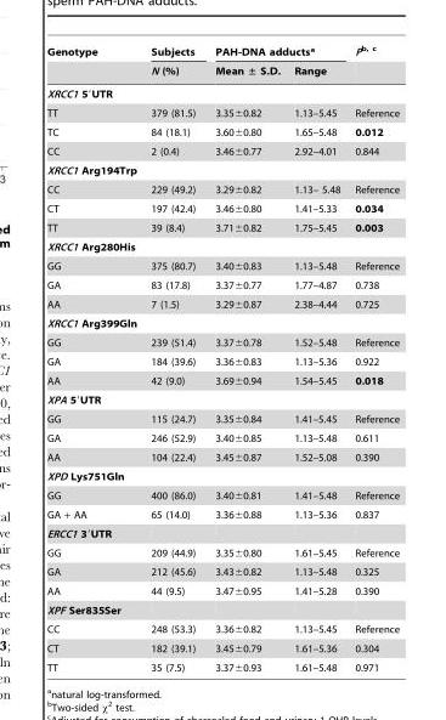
<table><thead><tr><td rowspan="2">Genotype</td><td rowspan="2">Subjects N (%)</td><td colspan="2">PAH-DNA adducts<sup>a</sup></td><td rowspan="2">Pb<sup>,</sup> c</td></tr><tr><td>Mean ± S.D.</td><td>Range</td></tr></thead><tbody><tr><td colspan="5">XRCC1 5′UTR</td></tr><tr><td>TT</td><td>379 (81.5)</td><td>3.35±0.82</td><td>1.13–5.45</td><td>Reference</td></tr><tr><td>TC</td><td>84 (18.1)</td><td>3.60±0.80</td><td>1.65–5.48</td><td>0.012</td></tr><tr><td>CC</td><td>2 (0.4)</td><td>3.46±0.77</td><td>2.92–4.01</td><td>0.844</td></tr><tr><td colspan="5">XRCC1 Arg194Trp</td></tr><tr><td>CC</td><td>229 (49.2)</td><td>3.29±0.82</td><td>1.13– 5.48</td><td>Reference</td></tr><tr><td>CT</td><td>197 (42.4)</td><td>3.46±0.80</td><td>1.41–5.33</td><td>0.034</td></tr><tr><td>TT</td><td>39 (8.4)</td><td>3.71±0.82</td><td>1.75–5.45</td><td>0.003</td></tr><tr><td colspan="5">XRCC1 Arg280His</td></tr><tr><td>GG</td><td>375 (80.7)</td><td>3.40±0.83</td><td>1.13–5.48</td><td>Reference</td></tr><tr><td>GA</td><td>83 (17.8)</td><td>3.37±0.77</td><td>1.77–4.87</td><td>0.738</td></tr><tr><td>AA</td><td>7 (1.5)</td><td>3.29±0.87</td><td>2.38–4.44</td><td>0.725</td></tr><tr><td colspan="5">XRCC1 Arg399Gln</td></tr><tr><td>GG</td><td>239 (51.4)</td><td>3.37±0.78</td><td>1.52–5.48</td><td>Reference</td></tr><tr><td>GA</td><td>184 (39.6)</td><td>3.36±0.83</td><td>1.13–5.36</td><td>0.922</td></tr><tr><td>AA</td><td>42 (9.0)</td><td>3.69±0.94</td><td>1.54–5.45</td><td>0.018</td></tr><tr><td colspan="5">XPA 5′UTR</td></tr><tr><td>GG</td><td>115 (24.7)</td><td>3.35±0.84</td><td>1.41–5.45</td><td>Reference</td></tr><tr><td>GA</td><td>246 (52.9)</td><td>3.40±0.85</td><td>1.13–5.48</td><td>0.611</td></tr><tr><td>AA</td><td>104 (22.4)</td><td>3.45±0.87</td><td>1.52–5.08</td><td>0.390</td></tr><tr><td colspan="5">XPD Lys751Gln</td></tr><tr><td>GG</td><td>400 (86.0)</td><td>3.40±0.81</td><td>1.41–5.48</td><td>Reference</td></tr><tr><td>GA + AA</td><td>65 (14.0)</td><td>3.36±0.88</td><td>1.13–5.36</td><td>0.837</td></tr><tr><td colspan="5">ERCC1 3′UTR</td></tr><tr><td>GG</td><td>209 (44.9)</td><td>3.35±0.80</td><td>1.61–5.45</td><td>Reference</td></tr><tr><td>GA</td><td>212 (45.6)</td><td>3.43±0.82</td><td>1.13–5.48</td><td>0.325</td></tr><tr><td>AA</td><td>44 (9.5)</td><td>3.47±0.95</td><td>1.41–5.28</td><td>0.390</td></tr><tr><td colspan="5">XPF Ser835Ser</td></tr><tr><td>CC</td><td>248 (53.3)</td><td>3.36±0.82</td><td>1.13–5.45</td><td>Reference</td></tr><tr><td>CT</td><td>182 (39.1)</td><td>3.45±0.79</td><td>1.61–5.36</td><td>0.304</td></tr><tr><td>TT</td><td>35 (7.5)</td><td>3.37±0.93</td><td>1.61–5.48</td><td>0.971</td></tr></tbody></table>